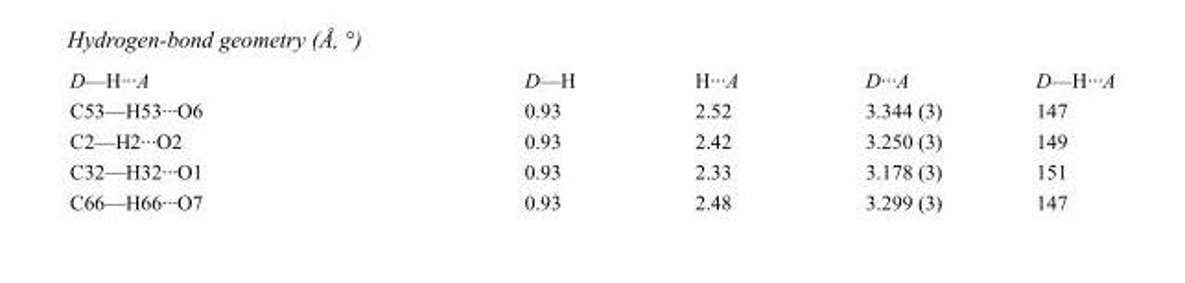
<table><tbody><tr><td>D—H···A</td><td>D—H</td><td>H···A</td><td>D···A</td><td>D—H···A</td></tr><tr><td>C53—H53···O6</td><td>0.93</td><td>2.52</td><td>3.344 (3)</td><td>147</td></tr><tr><td>C2—H2···O2</td><td>0.93</td><td>2.42</td><td>3.250 (3)</td><td>149</td></tr><tr><td>C32—H32···O1</td><td>0.93</td><td>2.33</td><td>3.178 (3)</td><td>151</td></tr><tr><td>C66—H66···O7</td><td>0.93</td><td>2.48</td><td>3.299 (3)</td><td>147</td></tr></tbody></table>